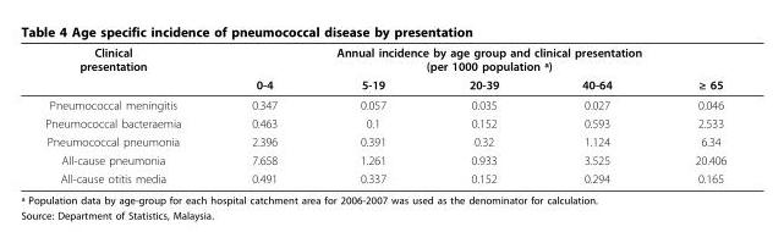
<table><thead><tr><td rowspan="2">Clinical presentation</td><td colspan="5">Annual incidence by age group and clinical presentation (per 1000 population ª)</td></tr><tr><td>0-4</td><td>5-19</td><td>20-39</td><td>40-64</td><td>≥ 65</td></tr></thead><tbody><tr><td>Pneumococcal meningitis</td><td>0.347</td><td>0.057</td><td>0.035</td><td>0.027</td><td>0.046</td></tr><tr><td>Pneumococcal bacteraemia</td><td>0.463</td><td>0.1</td><td>0.152</td><td>0.593</td><td>2.533</td></tr><tr><td>Pneumococcal pneumonia</td><td>2.396</td><td>0.391</td><td>0.32</td><td>1.124</td><td>6.34</td></tr><tr><td>All-cause pneumonia</td><td>7.658</td><td>1.261</td><td>0.933</td><td>3.525</td><td>20.406</td></tr><tr><td>All-cause otitis media</td><td>0.491</td><td>0.337</td><td>0.152</td><td>0.294</td><td>0.165</td></tr></tbody></table>